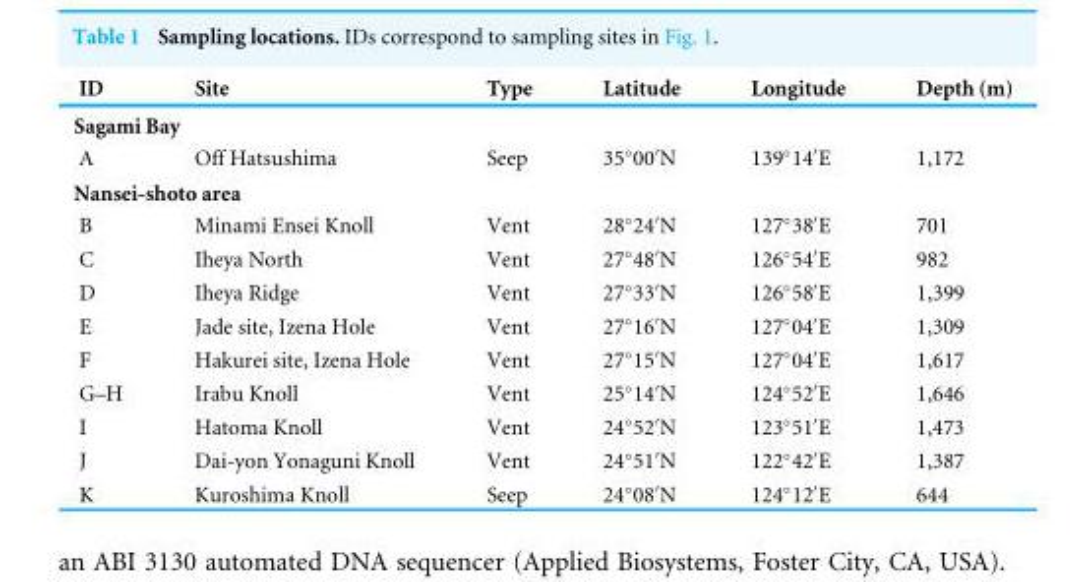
<table><thead><tr><td>ID</td><td>Site</td><td>Type</td><td>Latitude</td><td>Longitude</td><td>Depth (m)</td></tr></thead><tbody><tr><td colspan="6">Sagami Bay</td></tr><tr><td>A</td><td>Off Hatsushima</td><td>Seep</td><td>35◦00′N</td><td>139◦14′E</td><td>1,172</td></tr><tr><td colspan="6">Nansei-shoto area</td></tr><tr><td>B</td><td>Minami Ensei Knoll</td><td>Vent</td><td>28◦24′N</td><td>127◦38′E</td><td>701</td></tr><tr><td>C</td><td>Iheya North</td><td>Vent</td><td>27◦48′N</td><td>126◦54′E</td><td>982</td></tr><tr><td>D</td><td>Iheya Ridge</td><td>Vent</td><td>27◦33′N</td><td>126◦58′E</td><td>1,399</td></tr><tr><td>E</td><td>Jade site, Izena Hole</td><td>Vent</td><td>27◦16′N</td><td>127◦04′E</td><td>1,309</td></tr><tr><td>F</td><td>Hakurei site, Izena Hole</td><td>Vent</td><td>27◦15′N</td><td>127◦04′E</td><td>1,617</td></tr><tr><td>G–H</td><td>Irabu Knoll</td><td>Vent</td><td>25◦14′N</td><td>124◦52′E</td><td>1,646</td></tr><tr><td>I</td><td>Hatoma Knoll</td><td>Vent</td><td>24◦52′N</td><td>123◦51′E</td><td>1,473</td></tr><tr><td>J</td><td>Dai-yon Yonaguni Knoll</td><td>Vent</td><td>24◦51′N</td><td>122◦42′E</td><td>1,387</td></tr><tr><td>K</td><td>Kuroshima Knoll</td><td>Seep</td><td>24◦08′N</td><td>124◦12′E</td><td>644</td></tr></tbody></table>